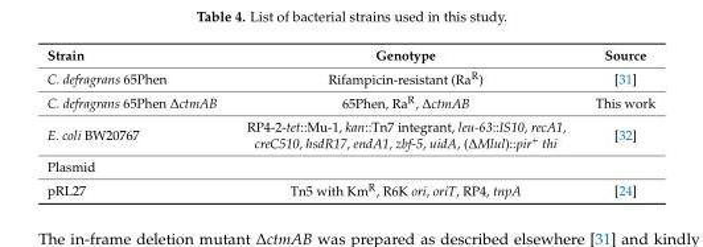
<table><thead><tr><td>Strain</td><td>Genotype</td><td>Source</td></tr></thead><tbody><tr><td>C. defragrans 65Phen</td><td>Rifampicin-resistant (Ra<sup>R</sup>)</td><td>[31]</td></tr><tr><td>C. defragrans 65Phen ∆ctmAB</td><td>65Phen, RaR, ∆ctmAB</td><td>This work</td></tr><tr><td>E. coli BW20767</td><td>RP4-2-tet::Mu-1, kan::Tn7 integrant, leu-63::IS10, recA1, creC510, hsdR17, endA1, zbf-5, uidA, (∆Mlul)::pir+ thi</td><td>[32]</td></tr><tr><td colspan="3">Plasmid</td></tr><tr><td>pRL27</td><td>Tn5 with Km<sup>R</sup>, R6K ori, oriT, RP4, tnpA</td><td>[24]</td></tr></tbody></table>